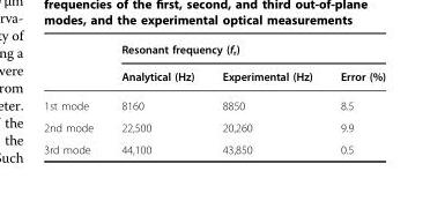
<table><thead><tr><td rowspan="2"></td><td colspan="3">Resonant frequency (f<sub>r</sub>)</td></tr><tr><td>Analytical (Hz)</td><td>Experimental (Hz)</td><td>Error (%)</td></tr></thead><tbody><tr><td>1st mode</td><td>8160</td><td>8850</td><td>8.5</td></tr><tr><td>2nd mode</td><td>22,500</td><td>20,260</td><td>9.9</td></tr><tr><td>3rd mode</td><td>44,100</td><td>43,850</td><td>0.5</td></tr></tbody></table>